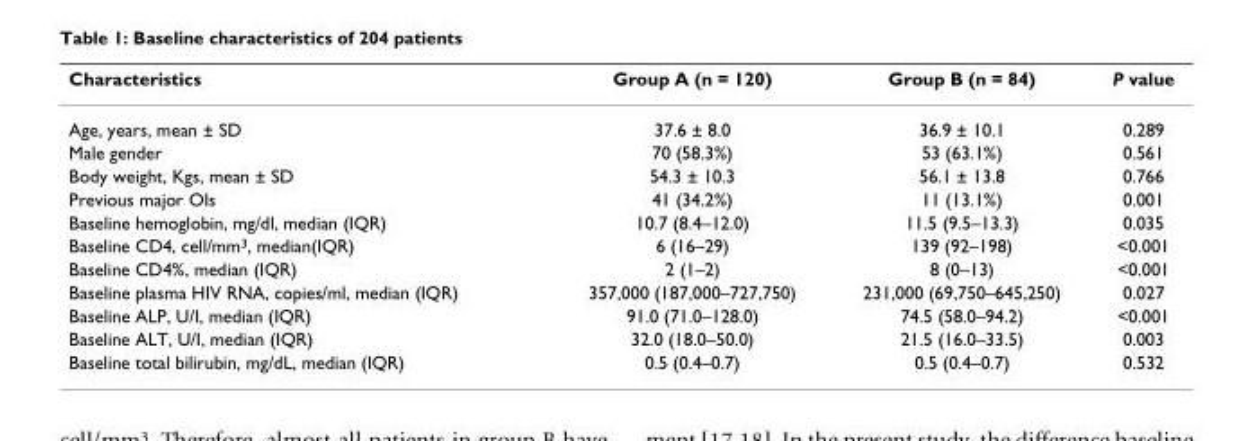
<table><thead><tr><td>Characteristics</td><td>Group A (n = 120)</td><td>Group B (n = 84)</td><td>P value</td></tr></thead><tbody><tr><td>Age, years, mean ± SD</td><td>37.6 ± 8.0</td><td>36.9 ± 10.1</td><td>0.289</td></tr><tr><td>Male gender</td><td>70 (58.3%)</td><td>53 (63.1%)</td><td>0.561</td></tr><tr><td>Body weight, Kgs, mean ± SD</td><td>54.3 ± 10.3</td><td>56.1 ± 13.8</td><td>0.766</td></tr><tr><td>Previous major OIs</td><td>41 (34.2%)</td><td>11 (13.1%)</td><td>0.001</td></tr><tr><td>Baseline hemoglobin, mg/dl, median (IQR)</td><td>10.7 (8.4–12.0)</td><td>11.5 (9.5–13.3)</td><td>0.035</td></tr><tr><td>Baseline CD4, cell/mm<sup>3</sup>, median(IQR)</td><td>6 (16–29)</td><td>139 (92–198)</td><td>&lt;0.001</td></tr><tr><td>Baseline CD4%, median (IQR)</td><td>2 (1–2)</td><td>8 (0–13)</td><td>&lt;0.001</td></tr><tr><td>Baseline plasma HIV RNA, copies/ml, median (IQR)</td><td>357,000 (187,000–727,750)</td><td>231,000 (69,750–645,250)</td><td>0.027</td></tr><tr><td>Baseline ALP, U/I, median (IQR)</td><td>91.0 (71.0–128.0)</td><td>74.5 (58.0–94.2)</td><td>&lt;0.001</td></tr><tr><td>Baseline ALT, U/I, median (IQR)</td><td>32.0 (18.0–50.0)</td><td>21.5 (16.0–33.5)</td><td>0.003</td></tr><tr><td>Baseline total bilirubin, mg/dL, median (IQR)</td><td>0.5 (0.4–0.7)</td><td>0.5 (0.4–0.7)</td><td>0.532</td></tr></tbody></table>